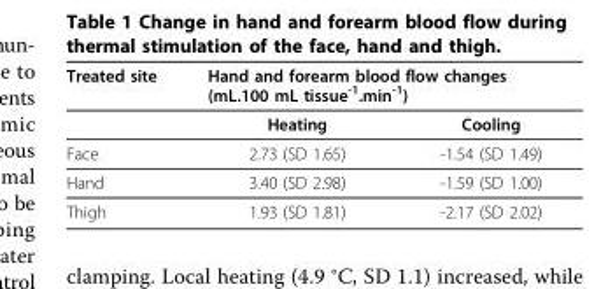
<table><thead><tr><td rowspan="2">Treated site</td><td colspan="2">Hand and forearm blood flow changes (mL.100 mL tissue<sup>-1</sup>.min<sup>-1</sup>)</td></tr><tr><td>Heating</td><td>Cooling</td></tr></thead><tbody><tr><td>Face</td><td>2.73 (SD 1.65)</td><td>-1.54 (SD 1.49)</td></tr><tr><td>Hand</td><td>3.40 (SD 2.98)</td><td>-1.59 (SD 1.00)</td></tr><tr><td>Thigh</td><td>1.93 (SD 1.81)</td><td>-2.17 (SD 2.02)</td></tr></tbody></table>